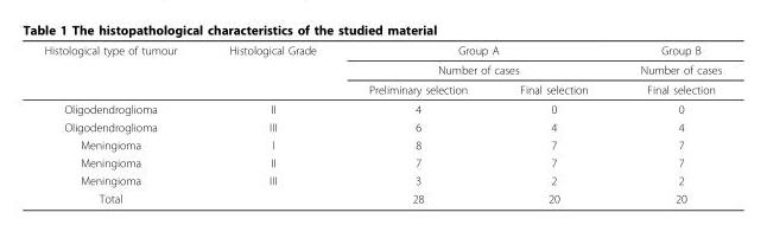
<table><thead><tr><td rowspan="3">Histological type of tumour</td><td rowspan="3">Histological Grade</td><td rowspan="2" colspan="2">Group A Number of cases</td><td rowspan="3">Group B Number of cases Final selection</td></tr><tr></tr><tr><td>Preliminary selection</td><td>Final selection</td></tr></thead><tbody><tr><td>Oligodendroglioma</td><td>II</td><td>4</td><td>0</td><td>0</td></tr><tr><td>Oligodendroglioma</td><td>III</td><td>6</td><td>4</td><td>4</td></tr><tr><td>Meningioma</td><td>I</td><td>8</td><td>7</td><td>7</td></tr><tr><td>Meningioma</td><td>II</td><td>7</td><td>7</td><td>7</td></tr><tr><td>Meningioma</td><td>III</td><td>3</td><td>2</td><td>2</td></tr><tr><td>Total</td><td></td><td>28</td><td>20</td><td>20</td></tr></tbody></table>